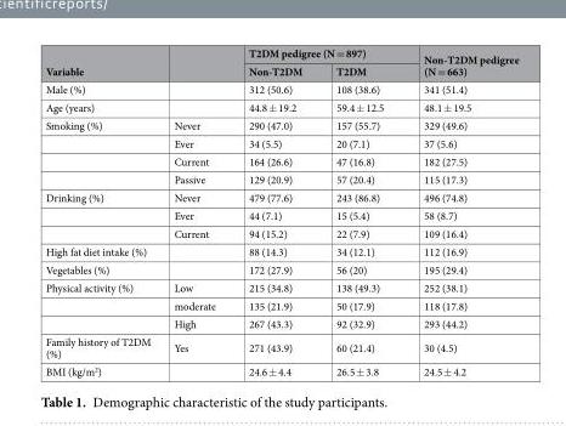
<table><thead><tr><td rowspan="2">Variable</td><td rowspan="2"></td><td colspan="2">T2DM pedigree (N = 897)</td><td rowspan="2">Non-T2DM pedigree (N = 663)</td></tr><tr><td>Non-T2DM</td><td>T2DM</td></tr></thead><tbody><tr><td>Male (%)</td><td></td><td>312 (50.6)</td><td>108 (38.6)</td><td>341 (51.4)</td></tr><tr><td>Age (years)</td><td></td><td>44.8 ± 19.2</td><td>59.4 ± 12.5</td><td>48.1 ± 19.5</td></tr><tr><td rowspan="4">Smoking (%)</td><td>Never</td><td>290 (47.0)</td><td>157 (55.7)</td><td>329 (49.6)</td></tr><tr><td>Ever</td><td>34 (5.5)</td><td>20 (7.1)</td><td>37 (5.6)</td></tr><tr><td>Current</td><td>164 (26.6)</td><td>47 (16.8)</td><td>182 (27.5)</td></tr><tr><td>Passive</td><td>129 (20.9)</td><td>57 (20.4)</td><td>115 (17.3)</td></tr><tr><td rowspan="3">Drinking (%)</td><td>Never</td><td>479 (77.6)</td><td>243 (86.8)</td><td>496 (74.8)</td></tr><tr><td>Ever</td><td>44 (7.1)</td><td>15 (5.4)</td><td>58 (8.7)</td></tr><tr><td>Current</td><td>94 (15.2)</td><td>22 (7.9)</td><td>109 (16.4)</td></tr><tr><td>High fat diet intake (%)</td><td></td><td>88 (14.3)</td><td>34 (12.1)</td><td>112 (16.9)</td></tr><tr><td>Vegetables (%)</td><td></td><td>172 (27.9)</td><td>56 (20)</td><td>195 (29.4)</td></tr><tr><td rowspan="3">Physical activity (%)</td><td>Low</td><td>215 (34.8)</td><td>138 (49.3)</td><td>252 (38.1)</td></tr><tr><td>moderate</td><td>135 (21.9)</td><td>50 (17.9)</td><td>118 (17.8)</td></tr><tr><td>High</td><td>267 (43.3)</td><td>92 (32.9)</td><td>293 (44.2)</td></tr><tr><td>Family history of T2DM (%)</td><td>Yes</td><td>271 (43.9)</td><td>60 (21.4)</td><td>30 (4.5)</td></tr><tr><td>BMI (kg/m<sup>2</sup>)</td><td></td><td>24.6 ± 4.4</td><td>26.5 ± 3.8</td><td>24.5 ± 4.2</td></tr></tbody></table>